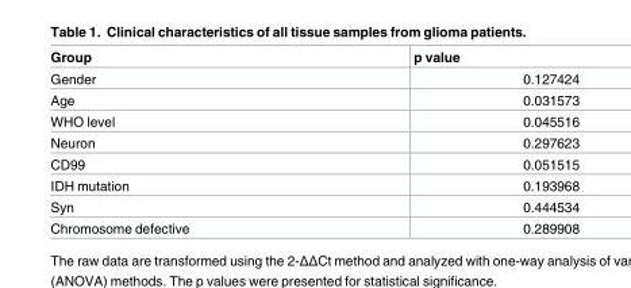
<table><thead><tr><td>Group</td><td>p value</td></tr></thead><tbody><tr><td>Gender</td><td>0.127424</td></tr><tr><td>Age</td><td>0.031573</td></tr><tr><td>WHO level</td><td>0.045516</td></tr><tr><td>Neuron</td><td>0.297623</td></tr><tr><td>CD99</td><td>0.051515</td></tr><tr><td>IDH mutation</td><td>0.193968</td></tr><tr><td>Syn</td><td>0.444534</td></tr><tr><td>Chromosome defective</td><td>0.289908</td></tr></tbody></table>